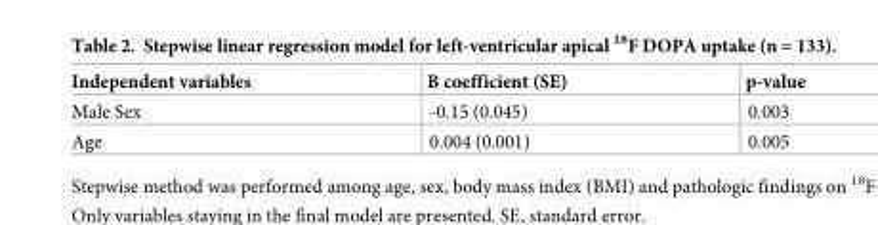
<table><thead><tr><td>Independent variables</td><td>B coefficient (SE)</td><td>p-value</td></tr></thead><tbody><tr><td>Male Sex</td><td>-0.15 (0.045)</td><td>0.003</td></tr><tr><td>Age</td><td>0.004 (0.001)</td><td>0.005</td></tr></tbody></table>